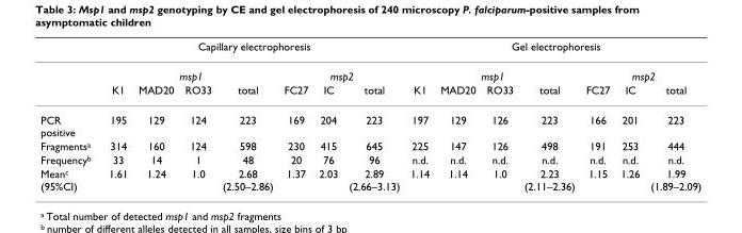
<table><thead><tr><td rowspan="3"></td><td colspan="7">Capillary electrophoresis</td><td colspan="7">Gel electrophoresis</td></tr><tr><td colspan="4">msp1</td><td colspan="3">msp2</td><td colspan="4">msp1</td><td colspan="3">msp2</td></tr><tr><td>K1</td><td>MAD20</td><td>RO33</td><td>total</td><td>FC27</td><td>IC</td><td>total</td><td>K1</td><td>MAD20</td><td>RO33</td><td>total</td><td>FC27</td><td>IC</td><td>total</td></tr></thead><tbody><tr><td>PCR positive</td><td>195</td><td>129</td><td>124</td><td>223</td><td>169</td><td>204</td><td>223</td><td>197</td><td>129</td><td>126</td><td>223</td><td>166</td><td>201</td><td>223</td></tr><tr><td>Fragments<sup>a</sup></td><td>314</td><td>160</td><td>124</td><td>598</td><td>230</td><td>415</td><td>645</td><td>225</td><td>147</td><td>126</td><td>498</td><td>191</td><td>253</td><td>444</td></tr><tr><td>Frequency<sup>b</sup></td><td>33</td><td>14</td><td>1</td><td>48</td><td>20</td><td>76</td><td>96</td><td>n.d.</td><td>n.d.</td><td>n.d.</td><td>n.d.</td><td>n.d.</td><td>n.d.</td><td>n.d.</td></tr><tr><td>Mean<sup>c</sup> (95%CI)</td><td>1.61</td><td>1.24</td><td>1.0</td><td>2.68 (2.50–2.86)</td><td>1.37</td><td>2.03</td><td>2.89 (2.66–3.13)</td><td>1.14</td><td>1.14</td><td>1.0</td><td>2.23 (2.11–2.36)</td><td>1.15</td><td>1.26</td><td>1.99 (1.89–2.09)</td></tr></tbody></table>